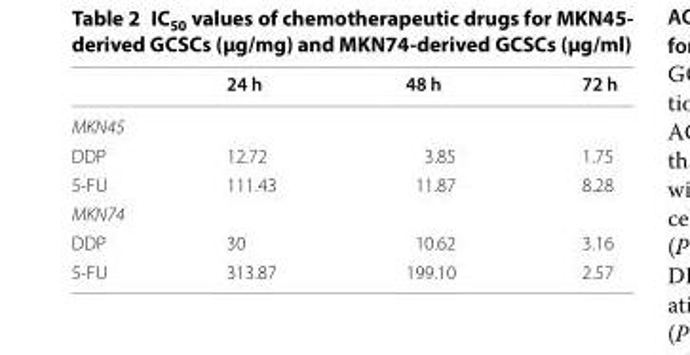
<table><thead><tr><td></td><td>24 h</td><td>48 h</td><td>72 h</td></tr></thead><tbody><tr><td colspan="4">MKN45</td></tr><tr><td>DDP</td><td>12.72</td><td>3.85</td><td>1.75</td></tr><tr><td>5-FU</td><td>111.43</td><td>11.87</td><td>8.28</td></tr><tr><td colspan="4">MKN74</td></tr><tr><td>DDP</td><td>30</td><td>10.62</td><td>3.16</td></tr><tr><td>5-FU</td><td>313.87</td><td>199.10</td><td>2.57</td></tr></tbody></table>